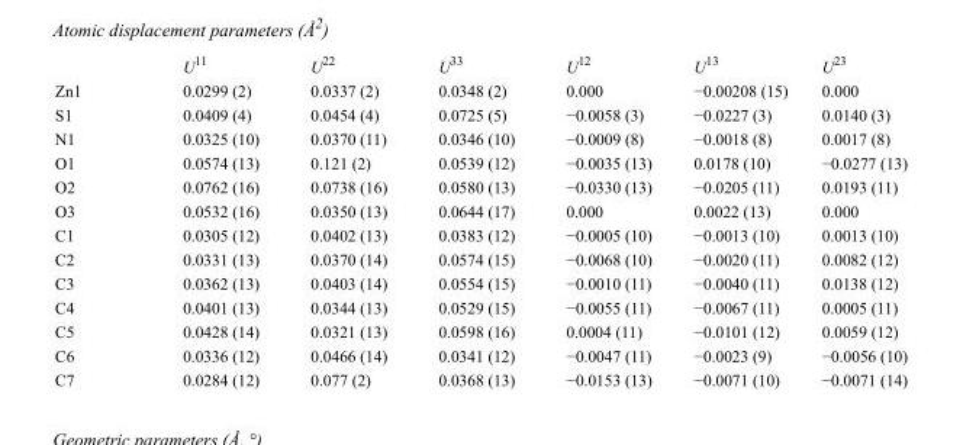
<table><thead><tr><td></td><td>U<sup>11</sup></td><td>U<sup>22</sup></td><td>U<sup>33</sup></td><td>U<sup>12</sup></td><td>U<sup>13</sup></td><td>U<sup>23</sup></td></tr></thead><tbody><tr><td>Zn1</td><td>0.0299 (2)</td><td>0.0337 (2)</td><td>0.0348 (2)</td><td>0.000</td><td>−0.00208 (15)</td><td>0.000</td></tr><tr><td>S1</td><td>0.0409 (4)</td><td>0.0454 (4)</td><td>0.0725 (5)</td><td>−0.0058 (3)</td><td>−0.0227 (3)</td><td>0.0140 (3)</td></tr><tr><td>N1</td><td>0.0325 (10)</td><td>0.0370 (11)</td><td>0.0346 (10)</td><td>−0.0009 (8)</td><td>−0.0018 (8)</td><td>0.0017 (8)</td></tr><tr><td>O1</td><td>0.0574 (13)</td><td>0.121 (2)</td><td>0.0539 (12)</td><td>−0.0035 (13)</td><td>0.0178 (10)</td><td>−0.0277 (13)</td></tr><tr><td>O2</td><td>0.0762 (16)</td><td>0.0738 (16)</td><td>0.0580 (13)</td><td>−0.0330 (13)</td><td>−0.0205 (11)</td><td>0.0193 (11)</td></tr><tr><td>O3</td><td>0.0532 (16)</td><td>0.0350 (13)</td><td>0.0644 (17)</td><td>0.000</td><td>0.0022 (13)</td><td>0.000</td></tr><tr><td>C1</td><td>0.0305 (12)</td><td>0.0402 (13)</td><td>0.0383 (12)</td><td>−0.0005 (10)</td><td>−0.0013 (10)</td><td>0.0013 (10)</td></tr><tr><td>C2</td><td>0.0331 (13)</td><td>0.0370 (14)</td><td>0.0574 (15)</td><td>−0.0068 (10)</td><td>−0.0020 (11)</td><td>0.0082 (12)</td></tr><tr><td>C3</td><td>0.0362 (13)</td><td>0.0403 (14)</td><td>0.0554 (15)</td><td>−0.0010 (11)</td><td>−0.0040 (11)</td><td>0.0138 (12)</td></tr><tr><td>C4</td><td>0.0401 (13)</td><td>0.0344 (13)</td><td>0.0529 (15)</td><td>−0.0055 (11)</td><td>−0.0067 (11)</td><td>0.0005 (11)</td></tr><tr><td>C5</td><td>0.0428 (14)</td><td>0.0321 (13)</td><td>0.0598 (16)</td><td>0.0004 (11)</td><td>−0.0101 (12)</td><td>0.0059 (12)</td></tr><tr><td>C6</td><td>0.0336 (12)</td><td>0.0466 (14)</td><td>0.0341 (12)</td><td>−0.0047 (11)</td><td>−0.0023 (9)</td><td>−0.0056 (10)</td></tr><tr><td>C7</td><td>0.0284 (12)</td><td>0.077 (2)</td><td>0.0368 (13)</td><td>−0.0153 (13)</td><td>−0.0071 (10)</td><td>−0.0071 (14)</td></tr></tbody></table>